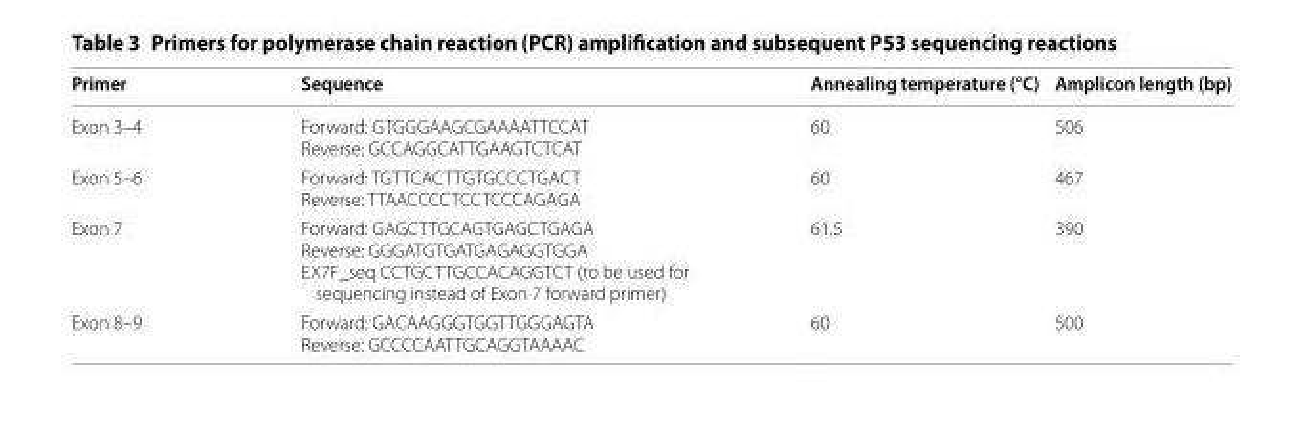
<table><thead><tr><td>Primer</td><td>Sequence</td><td>Annealing temperature (°C)</td><td>Amplicon length (bp)</td></tr></thead><tbody><tr><td>Exon 3–4</td><td>Forward: GTGGGAAGCGAAAATTCCAT Reverse: GCCAGGCATTGAAGTCTCAT</td><td>60</td><td>506</td></tr><tr><td>Exon 5–6</td><td>Forward: TGTTCACTTGTGCCCTGACT Reverse: TTAACCCCTCCTCCCAGAGA</td><td>60</td><td>467</td></tr><tr><td>Exon 7</td><td>Forward: GAGCTTGCAGTGAGCTGAGA Reverse: GGGATGTGATGAGAGGTGGA EX7F_seq CCTGCTTGCCACAGGTCT (to be used for sequencing instead of Exon 7 forward primer)</td><td>61.5</td><td>390</td></tr><tr><td>Exon 8–9</td><td>Forward: GACAAGGGTGGTTGGGAGTA Reverse: GCCCCAATTGCAGGTAAAAC</td><td>60</td><td>500</td></tr></tbody></table>